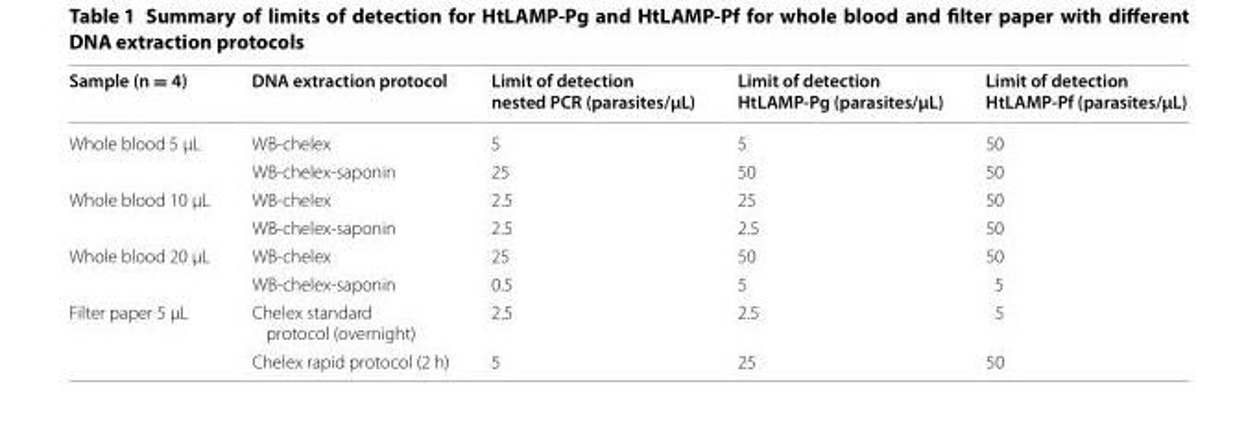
<table><thead><tr><td>Sample (n = 4)</td><td>DNA extraction protocol</td><td>Limit of detection nested PCR (parasites/µL)</td><td>Limit of detection HtLAMP‑Pg (parasites/µL)</td><td>Limit of detection HtLAMP‑Pf (parasites/µL)</td></tr></thead><tbody><tr><td rowspan="2">Whole blood 5 µL</td><td>WB-chelex</td><td>5</td><td>5</td><td>50</td></tr><tr><td>WB-chelex-saponin</td><td>25</td><td>50</td><td>50</td></tr><tr><td rowspan="2">Whole blood 10 µL</td><td>WB-chelex</td><td>2.5</td><td>25</td><td>50</td></tr><tr><td>WB-chelex-saponin</td><td>2.5</td><td>2.5</td><td>50</td></tr><tr><td rowspan="2">Whole blood 20 µL</td><td>WB-chelex</td><td>25</td><td>50</td><td>50</td></tr><tr><td>WB-chelex-saponin</td><td>0.5</td><td>5</td><td>5</td></tr><tr><td rowspan="2">Filter paper 5 µL</td><td>Chelex standard protocol (overnight)</td><td>2.5</td><td>2.5</td><td>5</td></tr><tr><td>Chelex rapid protocol (2 h)</td><td>5</td><td>25</td><td>50</td></tr></tbody></table>